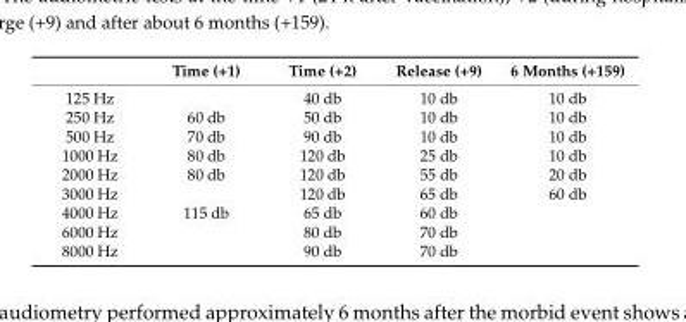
<table><thead><tr><td></td><td>Time (+1)</td><td>Time (+2)</td><td>Release (+9)</td><td>6 Months (+159)</td></tr></thead><tbody><tr><td>125 Hz</td><td></td><td>40 db</td><td>10 db</td><td>10 db</td></tr><tr><td>250 Hz</td><td>60 db</td><td>50 db</td><td>10 db</td><td>10 db</td></tr><tr><td>500 Hz</td><td>70 db</td><td>90 db</td><td>10 db</td><td>10 db</td></tr><tr><td>1000 Hz</td><td>80 db</td><td>120 db</td><td>25 db</td><td>10 db</td></tr><tr><td>2000 Hz</td><td>80 db</td><td>120 db</td><td>55 db</td><td>20 db</td></tr><tr><td>3000 Hz</td><td></td><td>120 db</td><td>65 db</td><td>60 db</td></tr><tr><td>4000 Hz</td><td>115 db</td><td>65 db</td><td>60 db</td><td></td></tr><tr><td>6000 Hz</td><td></td><td>80 db</td><td>70 db</td><td></td></tr><tr><td>8000 Hz</td><td></td><td>90 db</td><td>70 db</td><td></td></tr></tbody></table>